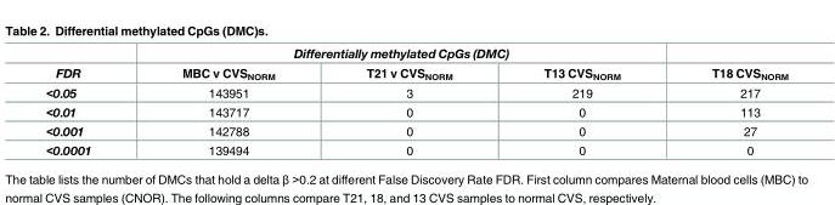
<table><thead><tr><td rowspan="2">FDR</td><td colspan="3">Differentially methylated CpGs (DMC)</td><td rowspan="2">T18 CVS<sub>NORM</sub></td></tr><tr><td>MBC v CVS<sub>NORM</sub></td><td>T21 v CVS<sub>NORM</sub></td><td>T13 CVS<sub>NORM</sub></td></tr></thead><tbody><tr><td>&lt;0.05</td><td>143951</td><td>3</td><td>219</td><td>217</td></tr><tr><td>&lt;0.01</td><td>143717</td><td>0</td><td>0</td><td>113</td></tr><tr><td>&lt;0.001</td><td>142788</td><td>0</td><td>0</td><td>27</td></tr><tr><td>&lt;0.0001</td><td>139494</td><td>0</td><td>0</td><td>0</td></tr></tbody></table>